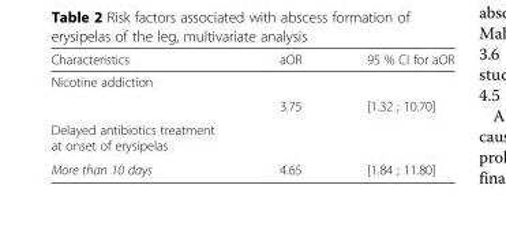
<table><thead><tr><td>Characteristics</td><td>aOR</td><td>95 % CI for aOR</td></tr></thead><tbody><tr><td colspan="3">Nicotine addiction</td></tr><tr><td></td><td>3.75</td><td>[1.32 ; 10.70]</td></tr><tr><td colspan="3">Delayed antibiotics treatment at onset of erysipelas</td></tr><tr><td>More than 10 days</td><td>4.65</td><td>[1.84 ; 11.80]</td></tr></tbody></table>